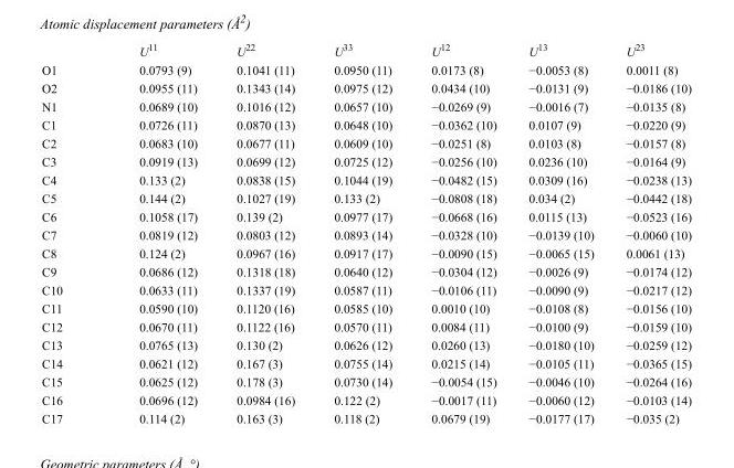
<table><thead><tr><td></td><td>U<sup>11</sup></td><td>U<sup>22</sup></td><td>U<sup>33</sup></td><td>U<sup>12</sup></td><td>U<sup>13</sup></td><td>U<sup>23</sup></td></tr></thead><tbody><tr><td>O1</td><td>0.0793 (9)</td><td>0.1041 (11)</td><td>0.0950 (11)</td><td>0.0173 (8)</td><td>−0.0053 (8)</td><td>0.0011 (8)</td></tr><tr><td>O2</td><td>0.0955 (11)</td><td>0.1343 (14)</td><td>0.0975 (12)</td><td>0.0434 (10)</td><td>−0.0131 (9)</td><td>−0.0186 (10)</td></tr><tr><td>N1</td><td>0.0689 (10)</td><td>0.1016 (12)</td><td>0.0657 (10)</td><td>−0.0269 (9)</td><td>−0.0016 (7)</td><td>−0.0135 (8)</td></tr><tr><td>C1</td><td>0.0726 (11)</td><td>0.0870 (13)</td><td>0.0648 (10)</td><td>−0.0362 (10)</td><td>0.0107 (9)</td><td>−0.0220 (9)</td></tr><tr><td>C2</td><td>0.0683 (10)</td><td>0.0677 (11)</td><td>0.0609 (10)</td><td>−0.0251 (8)</td><td>0.0103 (8)</td><td>−0.0157 (8)</td></tr><tr><td>C3</td><td>0.0919 (13)</td><td>0.0699 (12)</td><td>0.0725 (12)</td><td>−0.0256 (10)</td><td>0.0236 (10)</td><td>−0.0164 (9)</td></tr><tr><td>C4</td><td>0.133 (2)</td><td>0.0838 (15)</td><td>0.1044 (19)</td><td>−0.0482 (15)</td><td>0.0309 (16)</td><td>−0.0238 (13)</td></tr><tr><td>C5</td><td>0.144 (2)</td><td>0.1027 (19)</td><td>0.133 (2)</td><td>−0.0808 (18)</td><td>0.034 (2)</td><td>−0.0442 (18)</td></tr><tr><td>C6</td><td>0.1058 (17)</td><td>0.139 (2)</td><td>0.0977 (17)</td><td>−0.0668 (16)</td><td>0.0115 (13)</td><td>−0.0523 (16)</td></tr><tr><td>C7</td><td>0.0819 (12)</td><td>0.0803 (12)</td><td>0.0893 (14)</td><td>−0.0328 (10)</td><td>−0.0139 (10)</td><td>−0.0060 (10)</td></tr><tr><td>C8</td><td>0.124 (2)</td><td>0.0967 (16)</td><td>0.0917 (17)</td><td>−0.0090 (15)</td><td>−0.0065 (15)</td><td>0.0061 (13)</td></tr><tr><td>C9</td><td>0.0686 (12)</td><td>0.1318 (18)</td><td>0.0640 (12)</td><td>−0.0304 (12)</td><td>−0.0026 (9)</td><td>−0.0174 (12)</td></tr><tr><td>C10</td><td>0.0633 (11)</td><td>0.1337 (19)</td><td>0.0587 (11)</td><td>−0.0106 (11)</td><td>−0.0090 (9)</td><td>−0.0217 (12)</td></tr><tr><td>C11</td><td>0.0590 (10)</td><td>0.1120 (16)</td><td>0.0585 (10)</td><td>0.0010 (10)</td><td>−0.0108 (8)</td><td>−0.0156 (10)</td></tr><tr><td>C12</td><td>0.0670 (11)</td><td>0.1122 (16)</td><td>0.0570 (11)</td><td>0.0084 (11)</td><td>−0.0100 (9)</td><td>−0.0159 (10)</td></tr><tr><td>C13</td><td>0.0765 (13)</td><td>0.130 (2)</td><td>0.0626 (12)</td><td>0.0260 (13)</td><td>−0.0180 (10)</td><td>−0.0259 (12)</td></tr><tr><td>C14</td><td>0.0621 (12)</td><td>0.167 (3)</td><td>0.0755 (14)</td><td>0.0215 (14)</td><td>−0.0105 (11)</td><td>−0.0365 (15)</td></tr><tr><td>C15</td><td>0.0625 (12)</td><td>0.178 (3)</td><td>0.0730 (14)</td><td>−0.0054 (15)</td><td>−0.0046 (10)</td><td>−0.0264 (16)</td></tr><tr><td>C16</td><td>0.0696 (12)</td><td>0.0984 (16)</td><td>0.122 (2)</td><td>−0.0017 (11)</td><td>−0.0060 (12)</td><td>−0.0103 (14)</td></tr><tr><td>C17</td><td>0.114 (2)</td><td>0.163 (3)</td><td>0.118 (2)</td><td>0.0679 (19)</td><td>−0.0177 (17)</td><td>−0.035 (2)</td></tr></tbody></table>